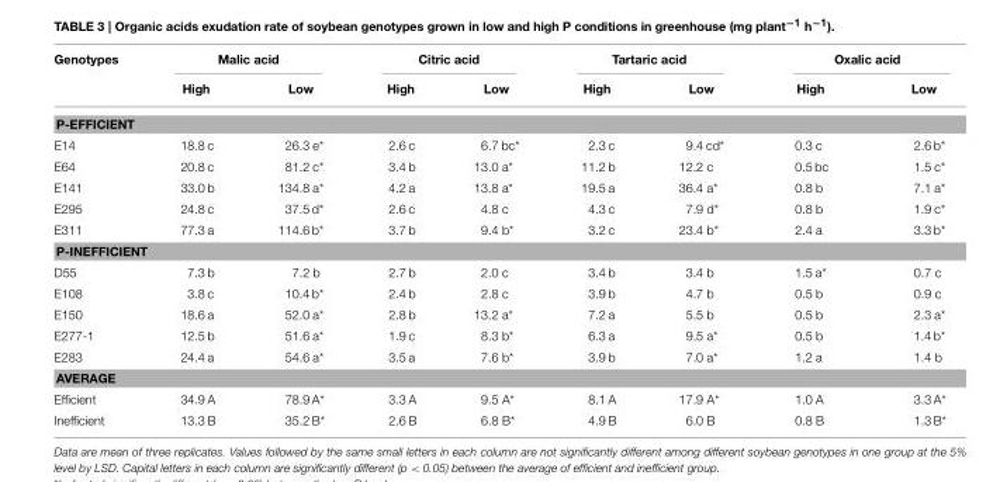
<table><thead><tr><td rowspan="2">Genotypes</td><td colspan="2">Malic acid</td><td colspan="2">Citric acid</td><td colspan="2">Tartaric acid</td><td colspan="2">Oxalic acid</td></tr><tr><td>High</td><td>Low</td><td>High</td><td>Low</td><td>High</td><td>Low</td><td>High</td><td>Low</td></tr></thead><tbody><tr><td colspan="9">P-EFFICIENT</td></tr><tr><td>E14</td><td>18.8 c</td><td>26.3 e*</td><td>2.6 c</td><td>6.7 bc*</td><td>2.3 c</td><td>9.4 cd*</td><td>0.3 c</td><td>2.6 b*</td></tr><tr><td>E64</td><td>20.8 c</td><td>81.2 c*</td><td>3.4 b</td><td>13.0 a*</td><td>11.2 b</td><td>12.2 c</td><td>0.5 bc</td><td>1.5 c*</td></tr><tr><td>E141</td><td>33.0 b</td><td>134.8 a*</td><td>4.2 a</td><td>13.8 a*</td><td>19.5 a</td><td>36.4 a*</td><td>0.8 b</td><td>7.1 a*</td></tr><tr><td>E295</td><td>24.8 c</td><td>37.5 d*</td><td>2.6 c</td><td>4.8 c</td><td>4.3 c</td><td>7.9 d*</td><td>0.8 b</td><td>1.9 c*</td></tr><tr><td>E311</td><td>77.3 a</td><td>114.6 b*</td><td>3.7 b</td><td>9.4 b*</td><td>3.2 c</td><td>23.4 b*</td><td>2.4 a</td><td>3.3 b*</td></tr><tr><td colspan="9">P-INEFFICIENT</td></tr><tr><td>D55</td><td>7.3 b</td><td>7.2 b</td><td>2.7 b</td><td>2.0 c</td><td>3.4 b</td><td>3.4 b</td><td>1.5 a*</td><td>0.7 c</td></tr><tr><td>E108</td><td>3.8 c</td><td>10.4 b*</td><td>2.4 b</td><td>2.8 c</td><td>3.9 b</td><td>4.7 b</td><td>0.5 b</td><td>0.9 c</td></tr><tr><td>E150</td><td>18.6 a</td><td>52.0 a*</td><td>2.8 b</td><td>13.2 a*</td><td>7.2 a</td><td>5.5 b</td><td>0.5 b</td><td>2.3 a*</td></tr><tr><td>E277-1</td><td>12.5 b</td><td>51.6 a*</td><td>1.9 c</td><td>8.3 b*</td><td>6.3 a</td><td>9.5 a*</td><td>0.5 b</td><td>1.4 b*</td></tr><tr><td>E283</td><td>24.4 a</td><td>54.6 a*</td><td>3.5 a</td><td>7.6 b*</td><td>3.9 b</td><td>7.0 a*</td><td>1.2 a</td><td>1.4 b</td></tr><tr><td colspan="9">AVERAGE</td></tr><tr><td>Efficient</td><td>34.9 A</td><td>78.9 A*</td><td>3.3 A</td><td>9.5 A*</td><td>8.1 A</td><td>17.9 A*</td><td>1.0 A</td><td>3.3 A*</td></tr><tr><td>Inefficient</td><td>13.3 B</td><td>35.2 B*</td><td>2.6 B</td><td>6.8 B*</td><td>4.9 B</td><td>6.0 B</td><td>0.8 B</td><td>1.3 B*</td></tr></tbody></table>